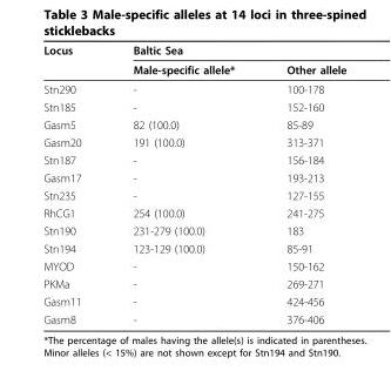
<table><thead><tr><td rowspan="2">Locus</td><td rowspan="2">Baltic Sea Male-specific allele*</td><td rowspan="2">Other allele</td></tr><tr></tr></thead><tbody><tr><td>Stn290</td><td>-</td><td>100-178</td></tr><tr><td>Stn185</td><td>-</td><td>152-160</td></tr><tr><td>Gasm5</td><td>82 (100.0)</td><td>85-89</td></tr><tr><td>Gasm20</td><td>191 (100.0)</td><td>313-371</td></tr><tr><td>Stn187</td><td>-</td><td>156-184</td></tr><tr><td>Gasm17</td><td>-</td><td>193-213</td></tr><tr><td>Stn235</td><td>-</td><td>127-155</td></tr><tr><td>RhCG1</td><td>254 (100.0)</td><td>241-275</td></tr><tr><td>Stn190</td><td>231-279 (100.0)</td><td>183</td></tr><tr><td>Stn194</td><td>123-129 (100.0)</td><td>85-91</td></tr><tr><td>MYOD</td><td>-</td><td>150-162</td></tr><tr><td>PKMa</td><td>-</td><td>269-271</td></tr><tr><td>Gasm11</td><td>-</td><td>424-456</td></tr><tr><td>Gasm8</td><td>-</td><td>376-406</td></tr></tbody></table>